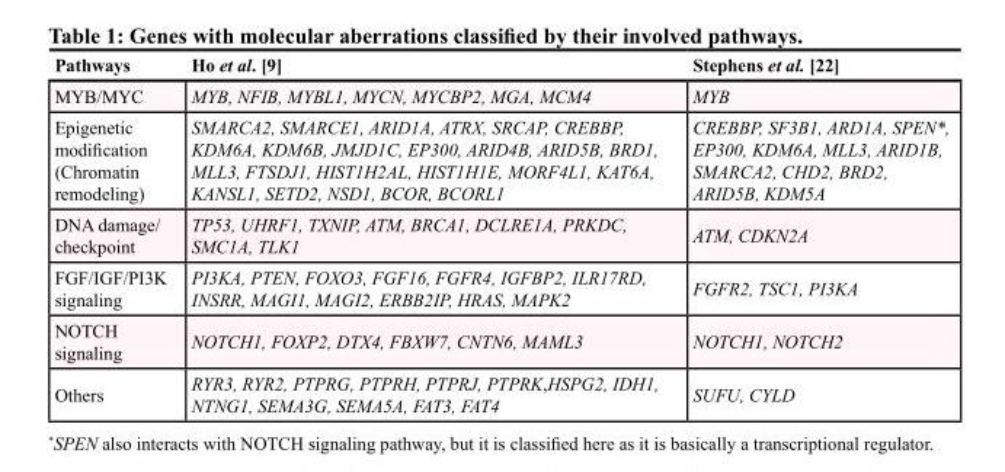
<table><thead><tr><td>Pathways</td><td>Ho et al. [9]</td><td>Stephens et al. [22]</td></tr></thead><tbody><tr><td>MYB/MYC</td><td>MYB, NFIB, MYBL1, MYCN, MYCBP2, MGA, MCM4</td><td>MYB</td></tr><tr><td>Epigenetic modification (Chromatin remodeling)</td><td>SMARCA2, SMARCE1, ARID1A, ATRX, SRCAP, CREBBP, KDM6A, KDM6B, JMJD1C, EP300, ARID4B, ARID5B, BRD1, MLL3, FTSDJ1, HIST1H2AL, HIST1H1E, MORF4L1, KAT6A, KANSL1, SETD2, NSD1, BCOR, BCORL1</td><td>CREBBP, SF3B1, ARD1A, SPEN*, EP300, KDM6A, MLL3, ARID1B, SMARCA2, CHD2, BRD2, ARID5B, KDM5A</td></tr><tr><td>DNA damage/ checkpoint</td><td>TP53, UHRF1, TXNIP, ATM, BRCA1, DCLRE1A, PRKDC, SMC1A, TLK1</td><td>ATM, CDKN2A</td></tr><tr><td>FGF/IGF/PI3K signaling</td><td>PI3KA, PTEN, FOXO3, FGF16, FGFR4, IGFBP2, ILR17RD, INSRR, MAGI1, MAGI2, ERBB2IP, HRAS, MAPK2</td><td>FGFR2, TSC1, PI3KA</td></tr><tr><td>NOTCH signaling</td><td>NOTCH1, FOXP2, DTX4, FBXW7, CNTN6, MAML3</td><td>NOTCH1, NOTCH2</td></tr><tr><td>Others</td><td>RYR3, RYR2, PTPRG, PTPRH, PTPRJ, PTPRK,HSPG2, IDH1, NTNG1, SEMA3G, SEMA5A, FAT3, FAT4</td><td>SUFU, CYLD</td></tr></tbody></table>